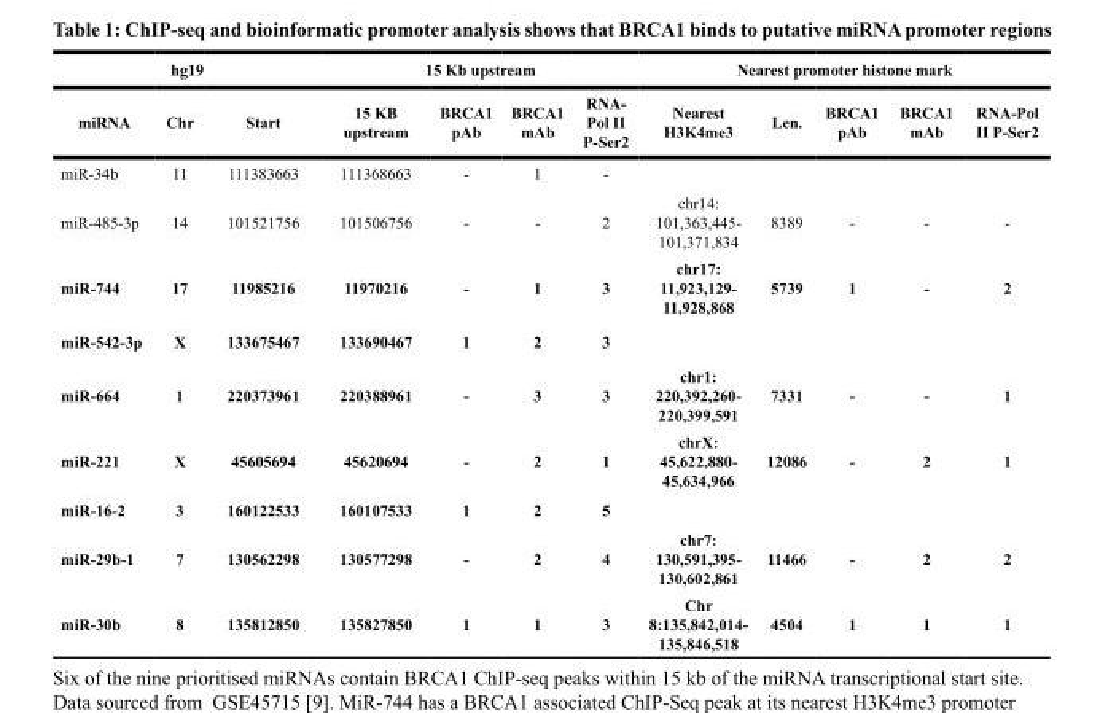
<table><thead><tr><td colspan="3">hg19</td><td colspan="4">15 Kb upstream</td><td colspan="5">Nearest promoter histone mark</td></tr><tr><td>miRNA</td><td>Chr</td><td>Start</td><td>15 KB upstream</td><td>BRCA1 pAb</td><td>BRCA1 mAb</td><td>RNA- Pol II P-Ser2</td><td>Nearest H3K4me3</td><td>Len.</td><td>BRCA1 pAb</td><td>BRCA1 mAb</td><td>RNA-Pol II P-Ser2</td></tr></thead><tbody><tr><td>miR-34b</td><td>11</td><td>111383663</td><td>111368663</td><td>-</td><td>1</td><td>-</td><td></td><td></td><td></td><td></td><td></td></tr><tr><td>miR-485-3p</td><td>14</td><td>101521756</td><td>101506756</td><td>-</td><td>-</td><td>2</td><td>chr14: 101,363,445- 101,371,834</td><td>8389</td><td>-</td><td>-</td><td>-</td></tr><tr><td>miR-744</td><td>17</td><td>11985216</td><td>11970216</td><td>-</td><td>1</td><td>3</td><td>chr17: 11,923,129- 11,928,868</td><td>5739</td><td>1</td><td>-</td><td>2</td></tr><tr><td>miR-542-3p</td><td>X</td><td>133675467</td><td>133690467</td><td>1</td><td>2</td><td>3</td><td></td><td></td><td></td><td></td><td></td></tr><tr><td>miR-664</td><td>1</td><td>220373961</td><td>220388961</td><td>-</td><td>3</td><td>3</td><td>chr1: 220,392,260- 220,399,591</td><td>7331</td><td>-</td><td>-</td><td>1</td></tr><tr><td>miR-221</td><td>X</td><td>45605694</td><td>45620694</td><td>-</td><td>2</td><td>1</td><td>chrX: 45,622,880- 45,634,966</td><td>12086</td><td>-</td><td>2</td><td>1</td></tr><tr><td>miR-16-2</td><td>3</td><td>160122533</td><td>160107533</td><td>1</td><td>2</td><td>5</td><td></td><td></td><td></td><td></td><td></td></tr><tr><td>miR-29b-1</td><td>7</td><td>130562298</td><td>130577298</td><td>-</td><td>2</td><td>4</td><td>chr7: 130,591,395- 130,602,861</td><td>11466</td><td>-</td><td>2</td><td>2</td></tr><tr><td>miR-30b</td><td>8</td><td>135812850</td><td>135827850</td><td>1</td><td>1</td><td>3</td><td>Chr 8:135,842,014- 135,846,518</td><td>4504</td><td>1</td><td>1</td><td>1</td></tr></tbody></table>